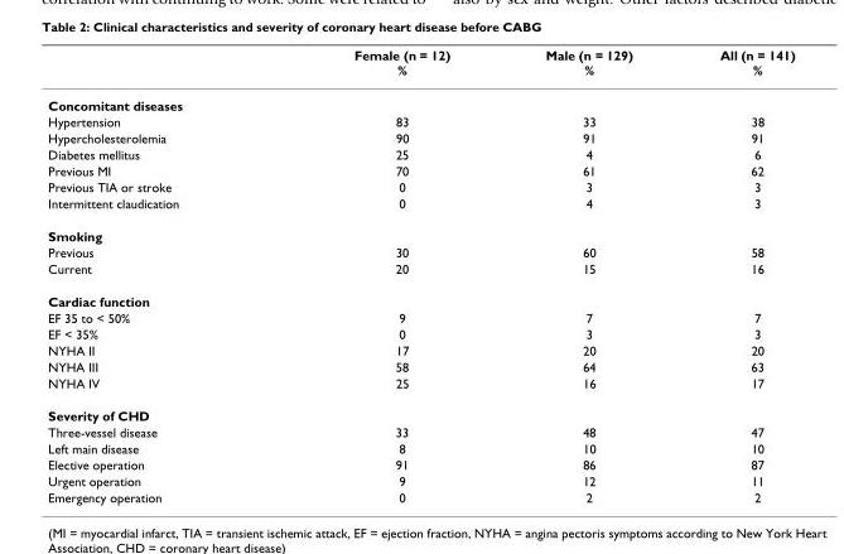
<table><thead><tr><td></td><td>Female (n = 12) %</td><td>Male (n = 129) %</td><td>All (n = 141) %</td></tr></thead><tbody><tr><td colspan="4">Concomitant diseases</td></tr><tr><td>Hypertension</td><td>83</td><td>33</td><td>38</td></tr><tr><td>Hypercholesterolemia</td><td>90</td><td>91</td><td>91</td></tr><tr><td>Diabetes mellitus</td><td>25</td><td>4</td><td>6</td></tr><tr><td>Previous MI</td><td>70</td><td>61</td><td>62</td></tr><tr><td>Previous TIA or stroke</td><td>0</td><td>3</td><td>3</td></tr><tr><td>Intermittent claudication</td><td>0</td><td>4</td><td>3</td></tr><tr><td colspan="4">Smoking</td></tr><tr><td>Previous</td><td>30</td><td>60</td><td>58</td></tr><tr><td>Current</td><td>20</td><td>15</td><td>16</td></tr><tr><td colspan="4">Cardiac function</td></tr><tr><td>EF 35 to &lt; 50%</td><td>9</td><td>7</td><td>7</td></tr><tr><td>EF &lt; 35%</td><td>0</td><td>3</td><td>3</td></tr><tr><td>NYHA II</td><td>17</td><td>20</td><td>20</td></tr><tr><td>NYHA III</td><td>58</td><td>64</td><td>63</td></tr><tr><td>NYHA IV</td><td>25</td><td>16</td><td>17</td></tr><tr><td colspan="4">Severity of CHD</td></tr><tr><td>Three-vessel disease</td><td>33</td><td>48</td><td>47</td></tr><tr><td>Left main disease</td><td>8</td><td>10</td><td>10</td></tr><tr><td>Elective operation</td><td>91</td><td>86</td><td>87</td></tr><tr><td>Urgent operation</td><td>9</td><td>12</td><td>11</td></tr><tr><td>Emergency operation</td><td>0</td><td>2</td><td>2</td></tr></tbody></table>